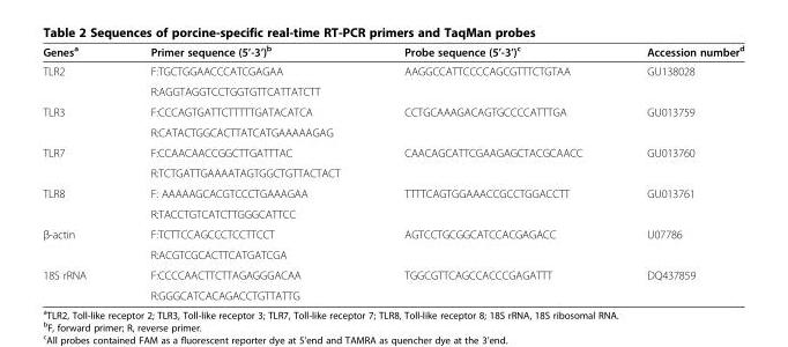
<table><thead><tr><td>Genes<sup>a</sup></td><td>Primer sequence (5’-3’)<sup>b</sup></td><td>Probe sequence (5’-3’)<sup>c</sup></td><td>Accession number<sup>d</sup></td></tr></thead><tbody><tr><td rowspan="2">TLR2</td><td>F:TGCTGGAACCCATCGAGAA</td><td rowspan="2">AAGGCCATTCCCCAGCGTTTCTGTAA</td><td rowspan="2">GU138028</td></tr><tr><td>R:AGGTAGGTCCTGGTGTTCATTATCTT</td></tr><tr><td rowspan="2">TLR3</td><td>F:CCCAGTGATTCTTTTTGATACATCA</td><td rowspan="2">CCTGCAAAGACAGTGCCCCATTTGA</td><td rowspan="2">GU013759</td></tr><tr><td>R:CATACTGGCACTTATCATGAAAAAGAG</td></tr><tr><td rowspan="2">TLR7</td><td>F:CCAACAACCGGCTTGATTTAC</td><td rowspan="2">CAACAGCATTCGAAGAGCTACGCAACC</td><td rowspan="2">GU013760</td></tr><tr><td>R:TCTGATTGAAAATAGTGGCTGTTACTACT</td></tr><tr><td rowspan="2">TLR8</td><td>F: AAAAAGCACGTCCCTGAAAGAA</td><td rowspan="2">TTTTCAGTGGAAACCGCCTGGACCTT</td><td rowspan="2">GU013761</td></tr><tr><td>R:TACCTGTCATCTTGGGCATTCC</td></tr><tr><td rowspan="2">β-actin</td><td>F:TCTTCCAGCCCTCCTTCCT</td><td rowspan="2">AGTCCTGCGGCATCCACGAGACC</td><td rowspan="2">U07786</td></tr><tr><td>R:ACGTCGCACTTCATGATCGA</td></tr><tr><td rowspan="2">18S rRNA</td><td>F:CCCCAACTTCTTAGAGGGACAA</td><td rowspan="2">TGGCGTTCAGCCACCCGAGATTT</td><td rowspan="2">DQ437859</td></tr><tr><td>R:GGGCATCACAGACCTGTTATTG</td></tr></tbody></table>